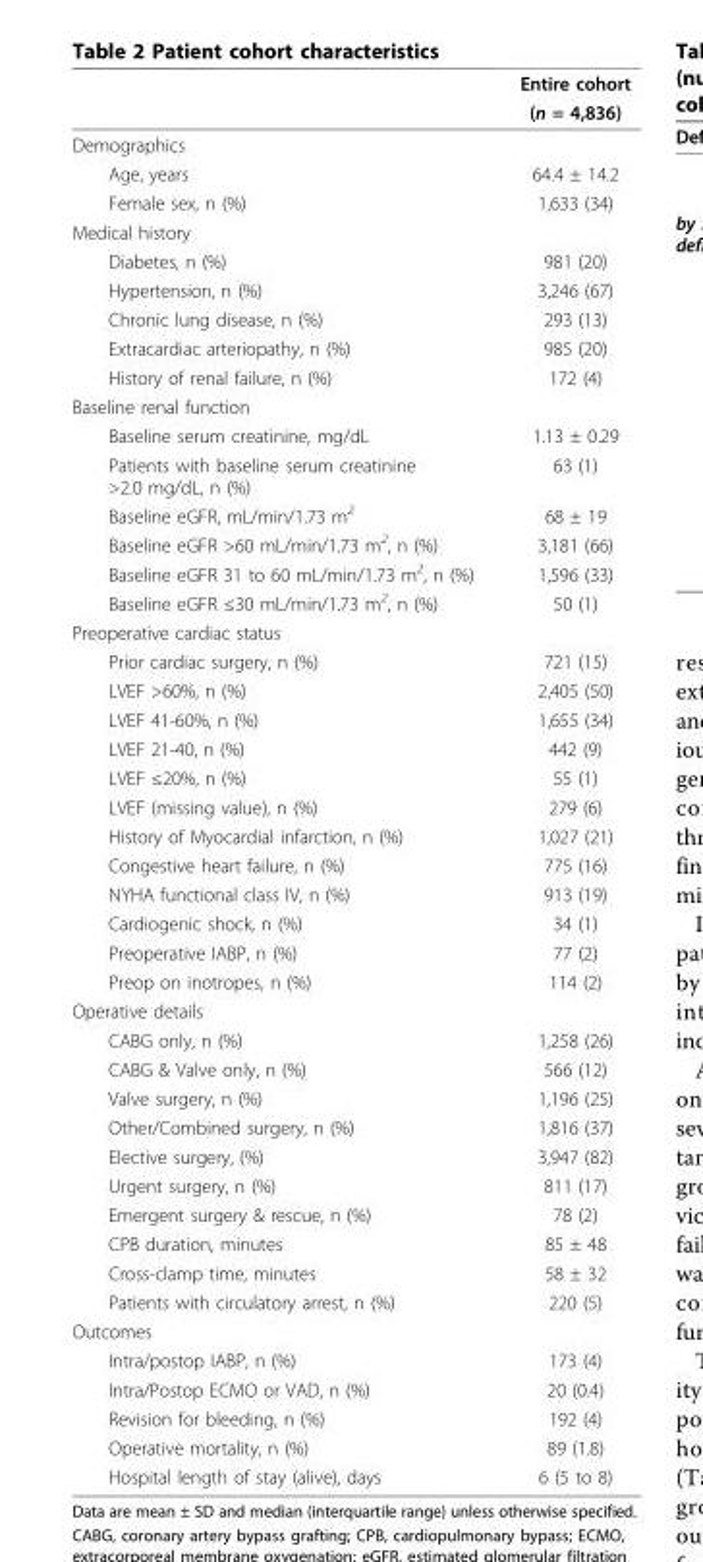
<table><thead><tr><td rowspan="2"></td><td rowspan="2">Entire cohort (n = 4,836)</td></tr><tr></tr></thead><tbody><tr><td colspan="2">Demographics</td></tr><tr><td>Age, years</td><td>64.4 ± 14.2</td></tr><tr><td>Female sex, n (%)</td><td>1,633 (34)</td></tr><tr><td colspan="2">Medical history</td></tr><tr><td>Diabetes, n (%)</td><td>981 (20)</td></tr><tr><td>Hypertension, n (%)</td><td>3,246 (67)</td></tr><tr><td>Chronic lung disease, n (%)</td><td>293 (13)</td></tr><tr><td>Extracardiac arteriopathy, n (%)</td><td>985 (20)</td></tr><tr><td>History of renal failure, n (%)</td><td>172 (4)</td></tr><tr><td colspan="2">Baseline renal function</td></tr><tr><td>Baseline serum creatinine, mg/dL</td><td>1.13 ± 0.29</td></tr><tr><td>Patients with baseline serum creatinine &gt;2.0 mg/dL, n (%)</td><td>63 (1)</td></tr><tr><td>Baseline eGFR, mL/min/1.73 m<sup>2</sup></td><td>68 ± 19</td></tr><tr><td>Baseline eGFR &gt;60 mL/min/1.73 m<sup>2</sup>, n (%)</td><td>3,181 (66)</td></tr><tr><td>Baseline eGFR 31 to 60 mL/min/1.73 m<sup>2</sup>, n (%)</td><td>1,596 (33)</td></tr><tr><td>Baseline eGFR ≤30 mL/min/1.73 m<sup>2</sup>, n (%)</td><td>50 (1)</td></tr><tr><td colspan="2">Preoperative cardiac status</td></tr><tr><td>Prior cardiac surgery, n (%)</td><td>721 (15)</td></tr><tr><td>LVEF &gt;60%, n (%)</td><td>2,405 (50)</td></tr><tr><td>LVEF 41-60%, n (%)</td><td>1,655 (34)</td></tr><tr><td>LVEF 21-40, n (%)</td><td>442 (9)</td></tr><tr><td>LVEF ≤20%, n (%)</td><td>55 (1)</td></tr><tr><td>LVEF (missing value), n (%)</td><td>279 (6)</td></tr><tr><td>History of Myocardial infarction, n (%)</td><td>1,027 (21)</td></tr><tr><td>Congestive heart failure, n (%)</td><td>775 (16)</td></tr><tr><td>NYHA functional class IV, n (%)</td><td>913 (19)</td></tr><tr><td>Cardiogenic shock, n (%)</td><td>34 (1)</td></tr><tr><td>Preoperative IABP, n (%)</td><td>77 (2)</td></tr><tr><td>Preop on inotropes, n (%)</td><td>114 (2)</td></tr><tr><td colspan="2">Operative details</td></tr><tr><td>CABG only, n (%)</td><td>1,258 (26)</td></tr><tr><td>CABG &amp; Valve only, n (%)</td><td>566 (12)</td></tr><tr><td>Valve surgery, n (%)</td><td>1,196 (25)</td></tr><tr><td>Other/Combined surgery, n (%)</td><td>1,816 (37)</td></tr><tr><td>Elective surgery, (%)</td><td>3,947 (82)</td></tr><tr><td>Urgent surgery, n (%)</td><td>811 (17)</td></tr><tr><td>Emergent surgery &amp; rescue, n (%)</td><td>78 (2)</td></tr><tr><td>CPB duration, minutes</td><td>85 ± 48</td></tr><tr><td>Cross-clamp time, minutes</td><td>58 ± 32</td></tr><tr><td>Patients with circulatory arrest, n (%)</td><td>220 (5)</td></tr><tr><td colspan="2">Outcomes</td></tr><tr><td>Intra/postop IABP, n (%)</td><td>173 (4)</td></tr><tr><td>Intra/Postop ECMO or VAD, n (%)</td><td>20 (0.4)</td></tr><tr><td>Revision for bleeding, n (%)</td><td>192 (4)</td></tr><tr><td>Operative mortality, n (%)</td><td>89 (1.8)</td></tr><tr><td>Hospital length of stay (alive), days</td><td>6 (5 to 8)</td></tr></tbody></table>